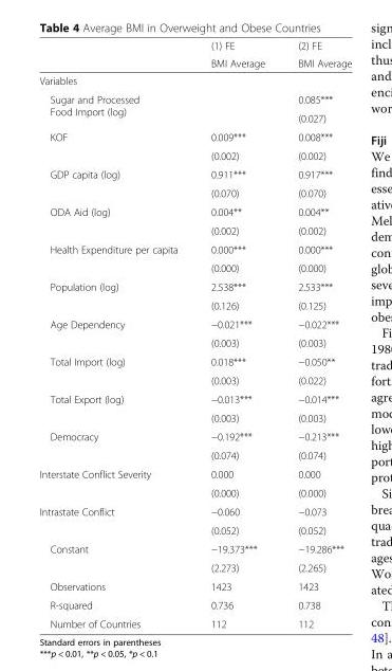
<table><thead><tr><td rowspan="2"></td><td rowspan="2">(1) FE BMI Average</td><td rowspan="2">(2) FE BMI Average</td></tr><tr></tr></thead><tbody><tr><td colspan="3">Variables</td></tr><tr><td rowspan="2">Sugar and Processed Food Import (log)</td><td></td><td>0.085***</td></tr><tr><td></td><td>(0.027)</td></tr><tr><td rowspan="2">KOF</td><td>0.009***</td><td>0.008***</td></tr><tr><td>(0.002)</td><td>(0.002)</td></tr><tr><td rowspan="2">GDP capita (log)</td><td>0.911***</td><td>0.917***</td></tr><tr><td>(0.070)</td><td>(0.070)</td></tr><tr><td rowspan="2">ODA Aid (log)</td><td>0.004**</td><td>0.004**</td></tr><tr><td>(0.002)</td><td>(0.002)</td></tr><tr><td rowspan="2">Health Expenditure per capita</td><td>0.000***</td><td>0.000***</td></tr><tr><td>(0.000)</td><td>(0.000)</td></tr><tr><td rowspan="2">Population (log)</td><td>2.538***</td><td>2.533***</td></tr><tr><td>(0.126)</td><td>(0.125)</td></tr><tr><td rowspan="2">Age Dependency</td><td>−0.021***</td><td>−0.022***</td></tr><tr><td>(0.003)</td><td>(0.003)</td></tr><tr><td rowspan="2">Total Import (log)</td><td>0.018***</td><td>−0.050**</td></tr><tr><td>(0.003)</td><td>(0.022)</td></tr><tr><td rowspan="2">Total Export (log)</td><td>−0.013***</td><td>−0.014***</td></tr><tr><td>(0.003)</td><td>(0.003)</td></tr><tr><td rowspan="2">Democracy</td><td>−0.192***</td><td>−0.213***</td></tr><tr><td>(0.074)</td><td>(0.074)</td></tr><tr><td rowspan="2">Interstate Conflict Severity</td><td>0.000</td><td>0.000</td></tr><tr><td>(0.000)</td><td>(0.000)</td></tr><tr><td rowspan="2">Intrastate Conflict</td><td>−0.060</td><td>−0.073</td></tr><tr><td>(0.052)</td><td>(0.052)</td></tr><tr><td rowspan="2">Constant</td><td>−19.373***</td><td>−19.286***</td></tr><tr><td>(2.273)</td><td>(2.265)</td></tr><tr><td>Observations</td><td>1423</td><td>1423</td></tr><tr><td>R-squared</td><td>0.736</td><td>0.738</td></tr><tr><td>Number of Countries</td><td>112</td><td>112</td></tr></tbody></table>